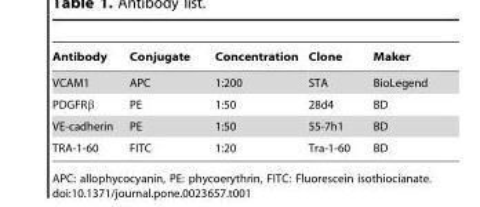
<table><thead><tr><td>Antibody</td><td>Conjugate</td><td>Concentration</td><td>Clone</td><td>Maker</td></tr></thead><tbody><tr><td>VCAM1</td><td>APC</td><td>1:200</td><td>STA</td><td>BioLegend</td></tr><tr><td>PDGFRβ</td><td>PE</td><td>1:50</td><td>28d4</td><td>BD</td></tr><tr><td>VE-cadherin</td><td>PE</td><td>1:50</td><td>55-7h1</td><td>BD</td></tr><tr><td>TRA-1-60</td><td>FITC</td><td>1:20</td><td>Tra-1-60</td><td>BD</td></tr></tbody></table>